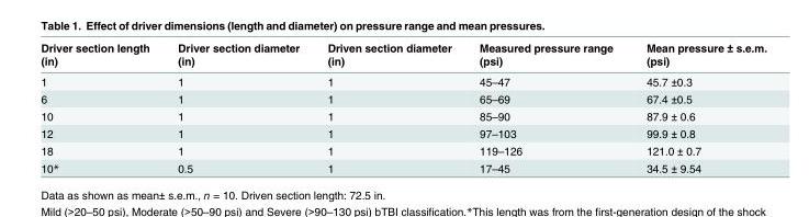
<table><thead><tr><td>Driver section length (in)</td><td>Driver section diameter (in)</td><td>Driven section diameter (in)</td><td>Measured pressure range (psi)</td><td>Mean pressure ± s.e.m. (psi)</td></tr></thead><tbody><tr><td>1</td><td>1</td><td>1</td><td>45–47</td><td>45.7 ±0.3</td></tr><tr><td>6</td><td>1</td><td>1</td><td>65–69</td><td>67.4 ±0.5</td></tr><tr><td>10</td><td>1</td><td>1</td><td>85–90</td><td>87.9 ± 0.6</td></tr><tr><td>12</td><td>1</td><td>1</td><td>97–103</td><td>99.9 ± 0.8</td></tr><tr><td>18</td><td>1</td><td>1</td><td>119–126</td><td>121.0 ± 0.7</td></tr><tr><td>10*</td><td>0.5</td><td>1</td><td>17–45</td><td>34.5 ± 9.54</td></tr></tbody></table>